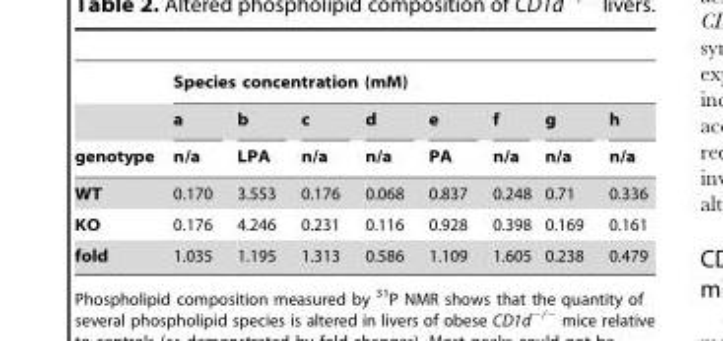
<table><thead><tr><td rowspan="3">genotype</td><td colspan="8">Species concentration (mM)</td></tr><tr><td rowspan="2">a n/a</td><td rowspan="2">b LPA</td><td rowspan="2">c n/a</td><td rowspan="2">d n/a</td><td rowspan="2">e PA</td><td rowspan="2">f n/a</td><td rowspan="2">g n/a</td><td rowspan="2">h n/a</td></tr><tr></tr></thead><tbody><tr><td>WT</td><td>0.170</td><td>3.553</td><td>0.176</td><td>0.068</td><td>0.837</td><td>0.248</td><td>0.71</td><td>0.336</td></tr><tr><td>KO</td><td>0.176</td><td>4.246</td><td>0.231</td><td>0.116</td><td>0.928</td><td>0.398</td><td>0.169</td><td>0.161</td></tr><tr><td>fold</td><td>1.035</td><td>1.195</td><td>1.313</td><td>0.586</td><td>1.109</td><td>1.605</td><td>0.238</td><td>0.479</td></tr></tbody></table>